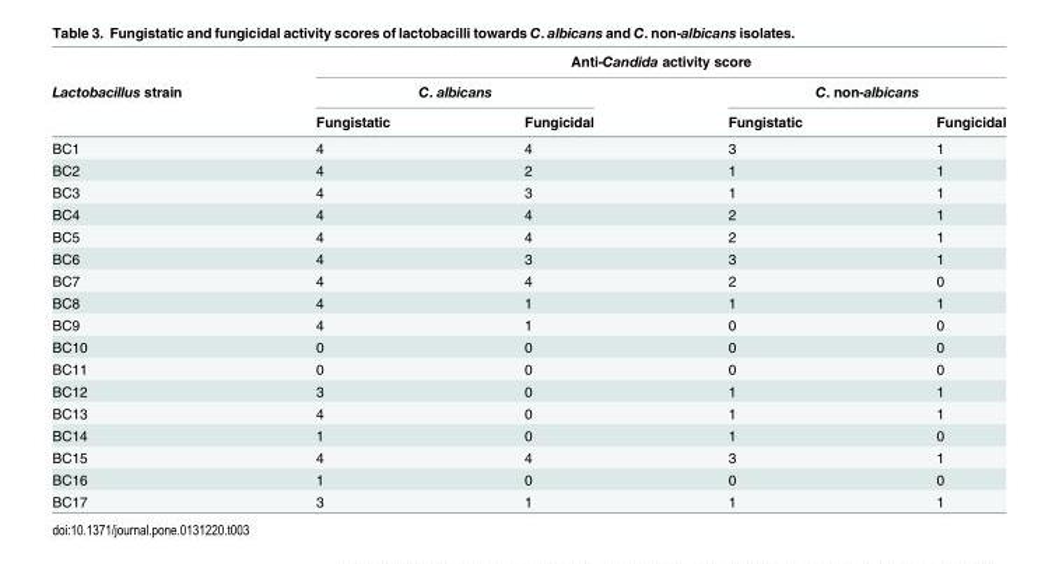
<table><thead><tr><td rowspan="3">Lactobacillus strain</td><td colspan="4">Anti-Candida activity score</td></tr><tr><td colspan="2">C. albicans</td><td colspan="2">C. non-albicans</td></tr><tr><td>Fungistatic</td><td>Fungicidal</td><td>Fungistatic</td><td>Fungicidal</td></tr></thead><tbody><tr><td>BC1</td><td>4</td><td>4</td><td>3</td><td>1</td></tr><tr><td>BC2</td><td>4</td><td>2</td><td>1</td><td>1</td></tr><tr><td>BC3</td><td>4</td><td>3</td><td>1</td><td>1</td></tr><tr><td>BC4</td><td>4</td><td>4</td><td>2</td><td>1</td></tr><tr><td>BC5</td><td>4</td><td>4</td><td>2</td><td>1</td></tr><tr><td>BC6</td><td>4</td><td>3</td><td>3</td><td>1</td></tr><tr><td>BC7</td><td>4</td><td>4</td><td>2</td><td>0</td></tr><tr><td>BC8</td><td>4</td><td>1</td><td>1</td><td>1</td></tr><tr><td>BC9</td><td>4</td><td>1</td><td>0</td><td>0</td></tr><tr><td>BC10</td><td>0</td><td>0</td><td>0</td><td>0</td></tr><tr><td>BC11</td><td>0</td><td>0</td><td>0</td><td>0</td></tr><tr><td>BC12</td><td>3</td><td>0</td><td>1</td><td>1</td></tr><tr><td>BC13</td><td>4</td><td>0</td><td>1</td><td>1</td></tr><tr><td>BC14</td><td>1</td><td>0</td><td>1</td><td>0</td></tr><tr><td>BC15</td><td>4</td><td>4</td><td>3</td><td>1</td></tr><tr><td>BC16</td><td>1</td><td>0</td><td>0</td><td>0</td></tr><tr><td>BC17</td><td>3</td><td>1</td><td>1</td><td>1</td></tr></tbody></table>